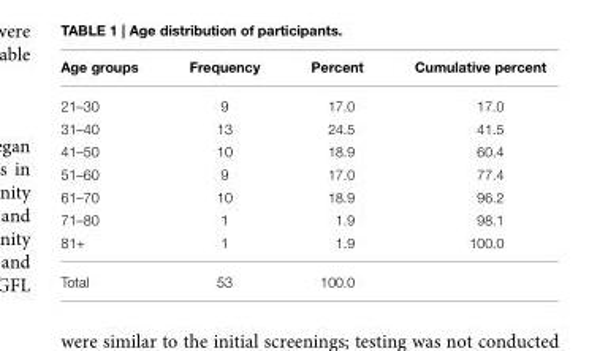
<table><thead><tr><td>Age groups</td><td>Frequency</td><td>Percent</td><td>Cumulative percent</td></tr></thead><tbody><tr><td>21–30</td><td>9</td><td>17.0</td><td>17.0</td></tr><tr><td>31–40</td><td>13</td><td>24.5</td><td>41.5</td></tr><tr><td>41–50</td><td>10</td><td>18.9</td><td>60.4</td></tr><tr><td>51–60</td><td>9</td><td>17.0</td><td>77.4</td></tr><tr><td>61–70</td><td>10</td><td>18.9</td><td>96.2</td></tr><tr><td>71–80</td><td>1</td><td>1.9</td><td>98.1</td></tr><tr><td>81+</td><td>1</td><td>1.9</td><td>100.0</td></tr><tr><td>Total</td><td>53</td><td>100.0</td><td></td></tr></tbody></table>